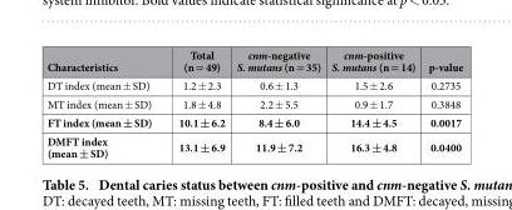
<table><thead><tr><td>Characteristics</td><td>Total (n = 49)</td><td>cnm-negative S. mutans (n = 35)</td><td>cnm-positive S. mutans (n = 14)</td><td>p-value</td></tr></thead><tbody><tr><td>DT index (mean ± SD)</td><td>1.2 ± 2.3</td><td>0.6 ± 1.3</td><td>1.5 ± 2.6</td><td>0.2735</td></tr><tr><td>MT index (mean ± SD)</td><td>1.8 ± 4.8</td><td>2.2 ± 5.5</td><td>0.9 ± 1.7</td><td>0.3848</td></tr><tr><td>FT index (mean ± SD)</td><td>10.1 ± 6.2</td><td>8.4 ± 6.0</td><td>14.4 ± 4.5</td><td>0.0017</td></tr><tr><td>DMFT index (mean ± SD)</td><td>13.1 ± 6.9</td><td>11.9 ± 7.2</td><td>16.3 ± 4.8</td><td>0.0400</td></tr></tbody></table>